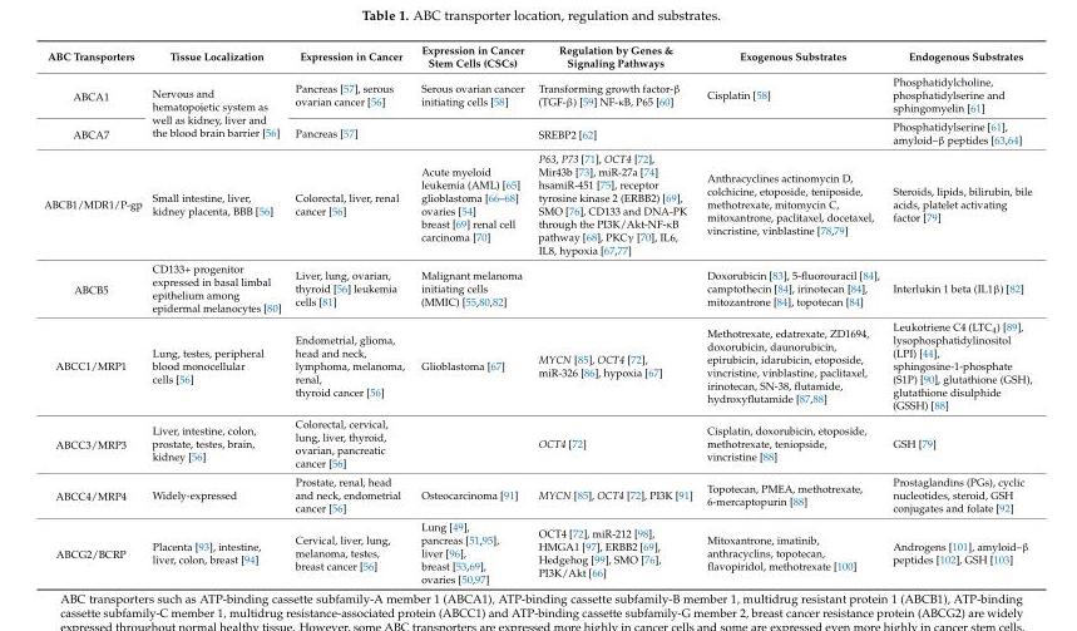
<table><thead><tr><td>ABC Transporters</td><td>Tissue Localization</td><td>Expression in Cancer</td><td>Expression in Cancer Stem Cells (CSCs)</td><td>Regulation by Genes &amp; Signaling Pathways</td><td>Exogenous Substrates</td><td>Endogenous Substrates</td></tr></thead><tbody><tr><td>ABCA1</td><td rowspan="2">Nervous and hematopoietic system as well as kidney, liver and the blood brain barrier [56]</td><td>Pancreas [57], serous ovarian cancer [56]</td><td>Serous ovarian cancer initiating cells [58]</td><td>Transforming growth factor-β (TGF-β) [59] NF-κB, P65 [60]</td><td>Cisplatin [58]</td><td>Phosphatidylcholine, phosphatidylserine and sphingomyelin [61]</td></tr><tr><td>ABCA7</td><td>Pancreas [57]</td><td></td><td>SREBP2 [62]</td><td></td><td>Phosphatidylserine [61], amyloid–β peptides [63,64]</td></tr><tr><td>ABCB1/MDR1/P-gp</td><td>Small intestine, liver, kidney placenta, BBB [56]</td><td>Colorectal, liver, renal cancer [56]</td><td>Acute myeloid leukemia (AML) [65] glioblastoma [66–68] ovaries [54] breast [69] renal cell carcinoma [70]</td><td>P63, P73 [71], OCT4 [72], Mir43b [73], miR-27a [74] hsamiR-451 [75], receptor tyrosine kinase 2 (ERBB2) [69], SMO [76], CD133 and DNA-PK through the PI3K/Akt-NF-κB pathway [68], PKCγ [70], IL6, IL8, hypoxia [67,77]</td><td>Anthracyclines actinomycin D, colchicine, etoposide, teniposide, methotrexate, mitomycin C, mitoxantrone, paclitaxel, docetaxel, vincristine, vinblastine [78,79]</td><td>Steroids, lipids, bilirubin, bile acids, platelet activating factor [79]</td></tr><tr><td>ABCB5</td><td>CD133+ progenitor expressed in basal limbal epithelium among epidermal melanocytes [80]</td><td>Liver, lung, ovarian, thyroid [56] leukemia cells [81]</td><td>Malignant melanoma initiating cells (MMIC) [55,80,82]</td><td></td><td>Doxorubicin [83], 5-fluorouracil [84], camptothecin [84], irinotecan [84], mitozantrone [84], topotecan [84]</td><td>Interlukin 1 beta (IL1β) [82]</td></tr><tr><td>ABCC1/MRP1</td><td>Lung, testes, peripheral blood monocellular cells [56]</td><td>Endometrial, glioma, head and neck, lymphoma, melanoma, renal, thyroid cancer [56]</td><td>Glioblastoma [67]</td><td>MYCN [85], OCT4 [72], miR-326 [86], hypoxia [67]</td><td>Methotrexate, edatrexate, ZD1694, doxorubicin, daunorubicin, epirubicin, idarubicin, etoposide, vincristine, vinblastine, paclitaxel, irinotecan, SN-38, flutamide, hydroxyflutamide [87,88]</td><td>Leukotriene C4 (LTC<sub>4</sub>) [89], lysophosphatidylinositol (LPI) [44], sphingosine-1-phosphate (S1P) [90], glutathione (GSH), glutathione disulphide (GSSH) [88]</td></tr><tr><td>ABCC3/MRP3</td><td>Liver, intestine, colon, prostate, testes, brain, kidney [56]</td><td>Colorectal, cervical, lung, liver, thyroid, ovarian, pancreatic cancer [56]</td><td></td><td>OCT4 [72]</td><td>Cisplatin, doxorubicin, etoposide, methotrexate, teniopside, vincristine [88]</td><td>GSH [79]</td></tr><tr><td>ABCC4/MRP4</td><td>Widely-expressed</td><td>Prostate, renal, head and neck, endometrial cancer [56]</td><td>Osteocarcinoma [91]</td><td>MYCN [85], OCT4 [72], PI3K [91]</td><td>Topotecan, PMEA, methotrexate, 6-mercaptopurin [88]</td><td>Prostaglandins (PGs), cyclic nucleotides, steroid, GSH conjugates and folate [92]</td></tr><tr><td>ABCG2/BCRP</td><td>Placenta [93], intestine, liver, colon, breast [94]</td><td>Cervical, liver, lung, melanoma, testes, breast cancer [56]</td><td>Lung [49], pancreas [51,95], liver [96], breast [53,69], ovaries [50,97]</td><td>OCT4 [72], miR-212 [98], HMGA1 [97], ERBB2 [69], Hedgehog [99], SMO [76], PI3K/Akt [66]</td><td>Mitoxantrone, imatinib, anthracyclins, topotecan, flavopiridol, methotrexate [100]</td><td>Androgens [101], amyloid–β peptides [102], GSH [103]</td></tr></tbody></table>